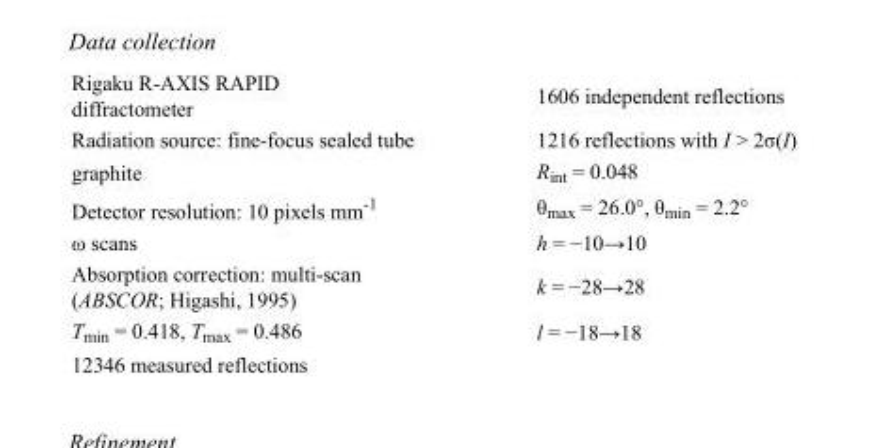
<table><tbody><tr><td>Rigaku R-AXIS RAPID diffractometer</td><td>1606 independent reflections</td></tr><tr><td>Radiation source: fine-focus sealed tube</td><td>1216 reflections with I &gt; 2σ(I)</td></tr><tr><td>graphite</td><td>R<sub>int</sub> = 0.048</td></tr><tr><td>Detector resolution: 10 pixels mm<sup>-1</sup></td><td>θ<sub>max</sub> = 26.0°, θ<sub>min</sub> = 2.2°</td></tr><tr><td>ω scans</td><td>h = −10→10</td></tr><tr><td>Absorption correction: multi-scan (ABSCOR; Higashi, 1995)</td><td>k = −28→28</td></tr><tr><td>T<sub>min</sub> = 0.418, T<sub>max</sub> = 0.486</td><td>l = −18→18</td></tr><tr><td>12346 measured reflections</td><td></td></tr></tbody></table>